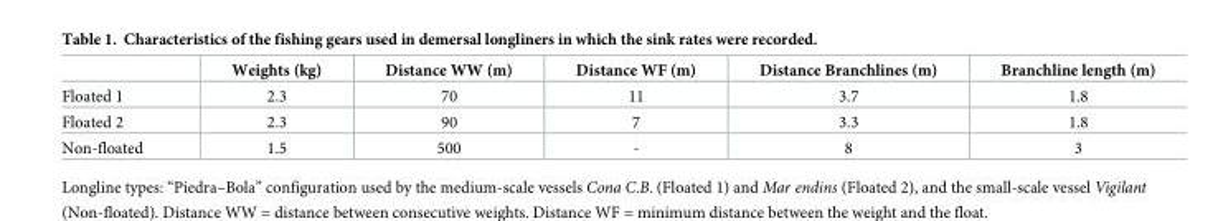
<table><thead><tr><td></td><td>Weights (kg)</td><td>Distance WW (m)</td><td>Distance WF (m)</td><td>Distance Branchlines (m)</td><td>Branchline length (m)</td></tr></thead><tbody><tr><td>Floated 1</td><td>2.3</td><td>70</td><td>11</td><td>3.7</td><td>1.8</td></tr><tr><td>Floated 2</td><td>2.3</td><td>90</td><td>7</td><td>3.3</td><td>1.8</td></tr><tr><td>Non-floated</td><td>1.5</td><td>500</td><td>-</td><td>8</td><td>3</td></tr></tbody></table>